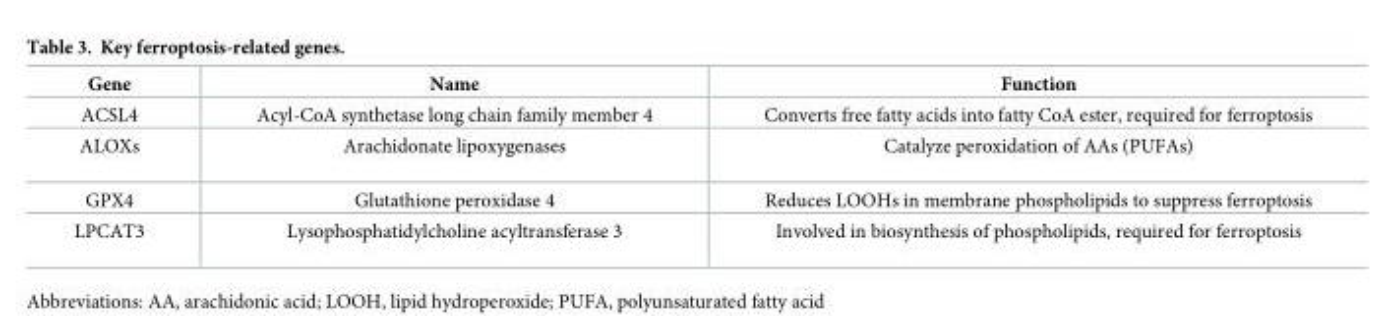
<table><thead><tr><td>Gene</td><td>Name</td><td>Function</td></tr></thead><tbody><tr><td>ACSL4</td><td>Acyl-CoA synthetase long chain family member 4</td><td>Converts free fatty acids into fatty CoA ester, required for ferroptosis</td></tr><tr><td>ALOXs</td><td>Arachidonate lipoxygenases</td><td>Catalyze peroxidation of AAs (PUFAs)</td></tr><tr><td>GPX4</td><td>Glutathione peroxidase 4</td><td>Reduces LOOHs in membrane phospholipids to suppress ferroptosis</td></tr><tr><td>LPCAT3</td><td>Lysophosphatidylcholine acyltransferase 3</td><td>Involved in biosynthesis of phospholipids, required for ferroptosis</td></tr></tbody></table>